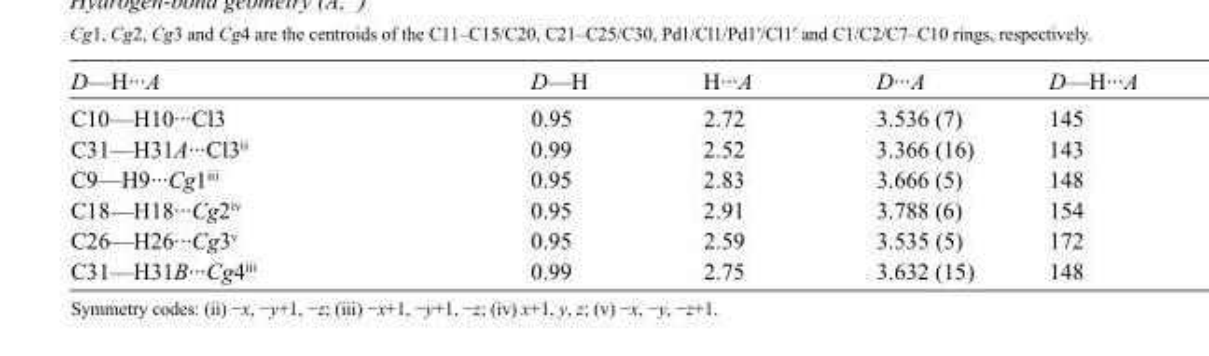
<table><tbody><tr><td>D—H···A</td><td>D—H</td><td>H···A</td><td>D···A</td><td>D—H···A</td></tr><tr><td>C10—H10···Cl3</td><td>0.95</td><td>2.72</td><td>3.536 (7)</td><td>145</td></tr><tr><td>C31—H31A···Cl3<sup>ii</sup></td><td>0.99</td><td>2.52</td><td>3.366 (16)</td><td>143</td></tr><tr><td>C9—H9···Cg1<sup>iii</sup></td><td>0.95</td><td>2.83</td><td>3.666 (5)</td><td>148</td></tr><tr><td>C18—H18···Cg2<sup>iv</sup></td><td>0.95</td><td>2.91</td><td>3.788 (6)</td><td>154</td></tr><tr><td>C26—H26···Cg3<sup>v</sup></td><td>0.95</td><td>2.59</td><td>3.535 (5)</td><td>172</td></tr><tr><td>C31—H31B···Cg4<sup>iii</sup></td><td>0.99</td><td>2.75</td><td>3.632 (15)</td><td>148</td></tr></tbody></table>